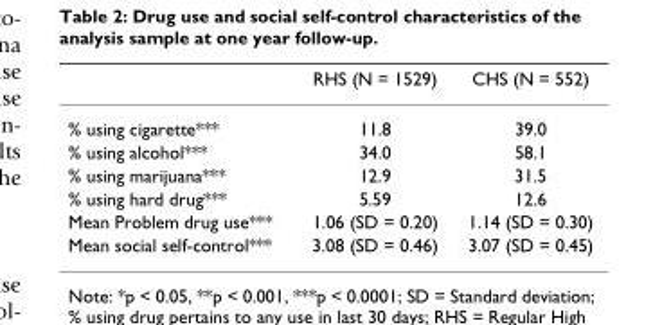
<table><thead><tr><td></td><td>RHS (N = 1529)</td><td>CHS (N = 552)</td></tr></thead><tbody><tr><td>% using cigarette***</td><td>11.8</td><td>39.0</td></tr><tr><td>% using alcohol***</td><td>34.0</td><td>58.1</td></tr><tr><td>% using marijuana***</td><td>12.9</td><td>31.5</td></tr><tr><td>% using hard drug***</td><td>5.59</td><td>12.6</td></tr><tr><td>Mean Problem drug use***</td><td>1.06 (SD = 0.20)</td><td>1.14 (SD = 0.30)</td></tr><tr><td>Mean social self-control***</td><td>3.08 (SD = 0.46)</td><td>3.07 (SD = 0.45)</td></tr></tbody></table>